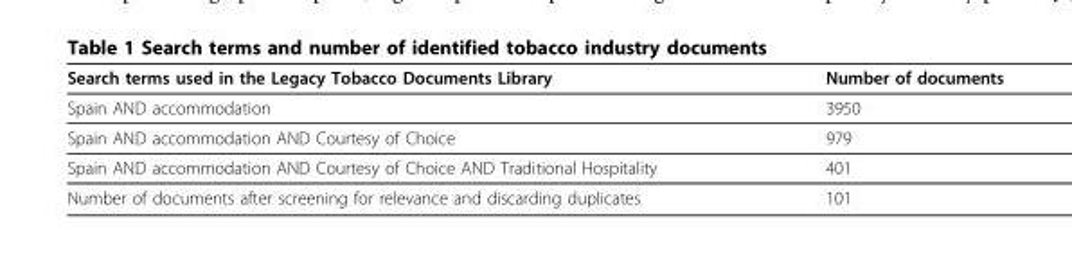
<table><thead><tr><td>Search terms used in the Legacy Tobacco Documents Library</td><td>Number of documents</td></tr></thead><tbody><tr><td>Spain AND accommodation</td><td>3950</td></tr><tr><td>Spain AND accommodation AND Courtesy of Choice</td><td>979</td></tr><tr><td>Spain AND accommodation AND Courtesy of Choice AND Traditional Hospitality</td><td>401</td></tr><tr><td>Number of documents after screening for relevance and discarding duplicates</td><td>101</td></tr></tbody></table>